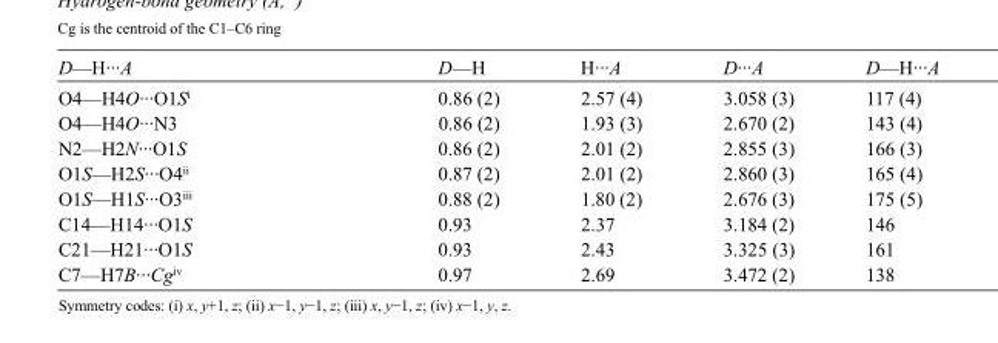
<table><tbody><tr><td>D—H···A</td><td>D—H</td><td>H···A</td><td>D···A</td><td>D—H···A</td></tr><tr><td>O4—H4O···O1S<sup>i</sup></td><td>0.86 (2)</td><td>2.57 (4)</td><td>3.058 (3)</td><td>117 (4)</td></tr><tr><td>O4—H4O···N3</td><td>0.86 (2)</td><td>1.93 (3)</td><td>2.670 (2)</td><td>143 (4)</td></tr><tr><td>N2—H2N···O1S</td><td>0.86 (2)</td><td>2.01 (2)</td><td>2.855 (3)</td><td>166 (3)</td></tr><tr><td>O1S—H2S···O4<sup>ii</sup></td><td>0.87 (2)</td><td>2.01 (2)</td><td>2.860 (3)</td><td>165 (4)</td></tr><tr><td>O1S—H1S···O3<sup>iii</sup></td><td>0.88 (2)</td><td>1.80 (2)</td><td>2.676 (3)</td><td>175 (5)</td></tr><tr><td>C14—H14···O1S</td><td>0.93</td><td>2.37</td><td>3.184 (2)</td><td>146</td></tr><tr><td>C21—H21···O1S</td><td>0.93</td><td>2.43</td><td>3.325 (3)</td><td>161</td></tr><tr><td>C7—H7B···Cg<sup>iv</sup></td><td>0.97</td><td>2.69</td><td>3.472 (2)</td><td>138</td></tr></tbody></table>